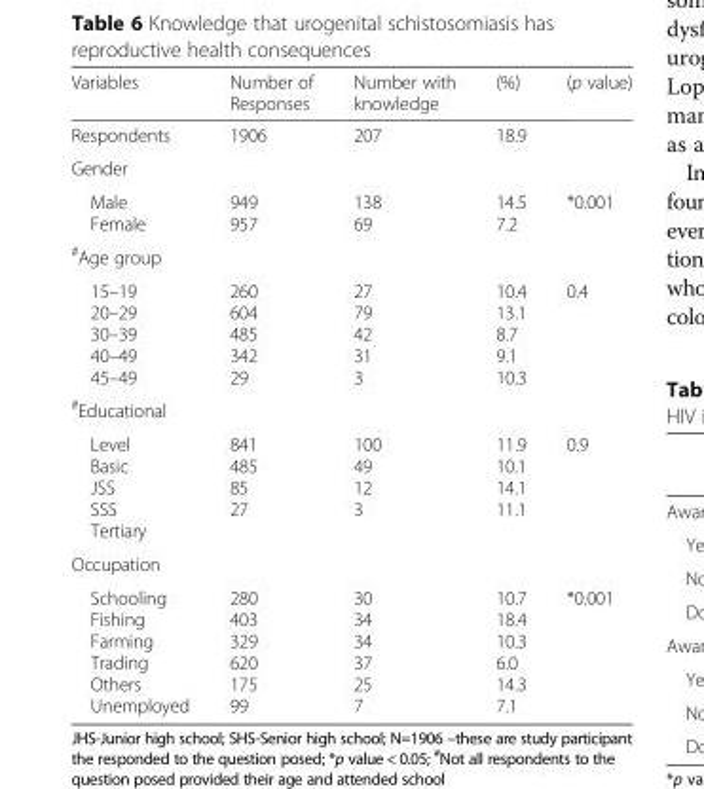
<table><thead><tr><td>Variables</td><td>Number of Responses</td><td>Number with knowledge</td><td>(%)</td><td>(p value)</td></tr></thead><tbody><tr><td>Respondents</td><td>1906</td><td>207</td><td>18.9</td><td></td></tr><tr><td colspan="5">Gender</td></tr><tr><td>Male Female</td><td>949 957</td><td>138 69</td><td>14.5 7.2</td><td>*0.001</td></tr><tr><td colspan="5"><sup>#</sup>Age group</td></tr><tr><td>15–19 20–29 30–39 40–49 45–49</td><td>260 604 485 342 29</td><td>27 79 42 31 3</td><td>10.4 13.1 8.7 9.1 10.3</td><td>0.4</td></tr><tr><td colspan="5"><sup>#</sup>Educational</td></tr><tr><td>Level Basic JSS SSS Tertiary</td><td>841 485 85 27</td><td>100 49 12 3</td><td>11.9 10.1 14.1 11.1</td><td>0.9</td></tr><tr><td colspan="5">Occupation</td></tr><tr><td>Schooling Fishing Farming Trading Others Unemployed</td><td>280 403 329 620 175 99</td><td>30 34 34 37 25 7</td><td>10.7 18.4 10.3 6.0 14.3 7.1</td><td>*0.001</td></tr></tbody></table>